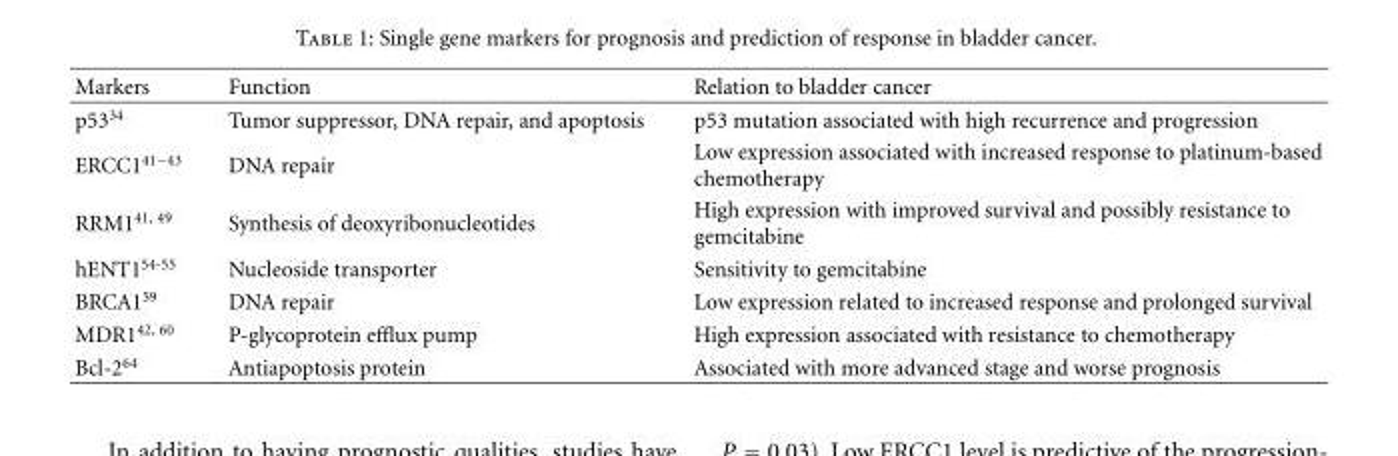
<table><thead><tr><td>Markers</td><td>Function</td><td>Relation to bladder cancer</td></tr></thead><tbody><tr><td>p53<sup>34</sup></td><td>Tumor suppressor, DNA repair, and apoptosis</td><td>p53 mutation associated with high recurrence and progression</td></tr><tr><td>ERCC1<sup>41−43</sup></td><td>DNA repair</td><td>Low expression associated with increased response to platinum-based chemotherapy</td></tr><tr><td>RRM1<sup>41, 49</sup></td><td>Synthesis of deoxyribonucleotides</td><td>High expression with improved survival and possibly resistance to gemcitabine</td></tr><tr><td>hENT1<sup>54-55</sup></td><td>Nucleoside transporter</td><td>Sensitivity to gemcitabine</td></tr><tr><td>BRCA1<sup>59</sup></td><td>DNA repair</td><td>Low expression related to increased response and prolonged survival</td></tr><tr><td>MDR1<sup>42, 60</sup></td><td>P-glycoprotein efflux pump</td><td>High expression associated with resistance to chemotherapy</td></tr><tr><td>Bcl-2<sup>64</sup></td><td>Antiapoptosis protein</td><td>Associated with more advanced stage and worse prognosis</td></tr></tbody></table>